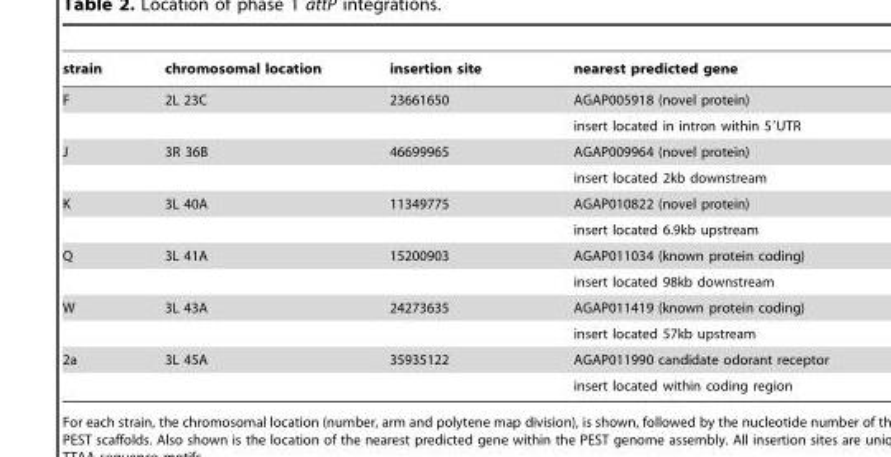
<table><thead><tr><td>strain</td><td>chromosomal location</td><td>insertion site</td><td>nearest predicted gene</td></tr></thead><tbody><tr><td rowspan="2">F</td><td>2L 23C</td><td>23661650</td><td>AGAP005918 (novel protein)</td></tr><tr><td></td><td></td><td>insert located in intron within 5′UTR</td></tr><tr><td rowspan="2">J</td><td>3R 36B</td><td>46699965</td><td>AGAP009964 (novel protein)</td></tr><tr><td></td><td></td><td>insert located 2kb downstream</td></tr><tr><td rowspan="2">K</td><td>3L 40A</td><td>11349775</td><td>AGAP010822 (novel protein)</td></tr><tr><td></td><td></td><td>insert located 6.9kb upstream</td></tr><tr><td rowspan="2">Q</td><td>3L 41A</td><td>15200903</td><td>AGAP011034 (known protein coding)</td></tr><tr><td></td><td></td><td>insert located 98kb downstream</td></tr><tr><td rowspan="2">W</td><td>3L 43A</td><td>24273635</td><td>AGAP011419 (known protein coding)</td></tr><tr><td></td><td></td><td>insert located 57kb upstream</td></tr><tr><td rowspan="2">2a</td><td>3L 45A</td><td>35935122</td><td>AGAP011990 candidate odorant receptor</td></tr><tr><td></td><td></td><td>insert located within coding region</td></tr></tbody></table>